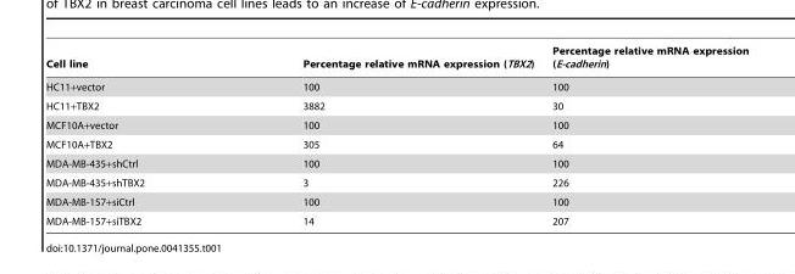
<table><thead><tr><td>Cell line</td><td>Percentage relative mRNA expression (TBX2)</td><td>Percentage relative mRNA expression (E-cadherin)</td></tr></thead><tbody><tr><td>HC11+vector</td><td>100</td><td>100</td></tr><tr><td>HC11+TBX2</td><td>3882</td><td>30</td></tr><tr><td>MCF10A+vector</td><td>100</td><td>100</td></tr><tr><td>MCF10A+TBX2</td><td>305</td><td>64</td></tr><tr><td>MDA-MB-435+shCtrl</td><td>100</td><td>100</td></tr><tr><td>MDA-MB-435+shTBX2</td><td>3</td><td>226</td></tr><tr><td>MDA-MB-157+siCtrl</td><td>100</td><td>100</td></tr><tr><td>MDA-MB-157+siTBX2</td><td>14</td><td>207</td></tr></tbody></table>